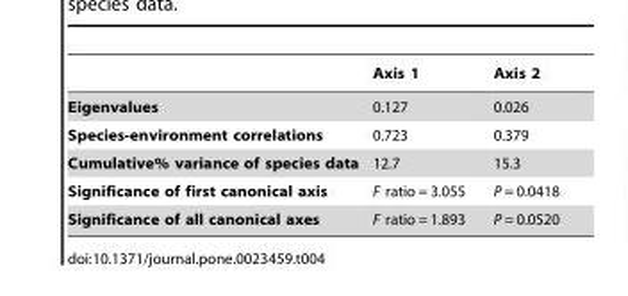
<table><thead><tr><td></td><td>Axis 1</td><td>Axis 2</td></tr></thead><tbody><tr><td>Eigenvalues</td><td>0.127</td><td>0.026</td></tr><tr><td>Species-environment correlations</td><td>0.723</td><td>0.379</td></tr><tr><td>Cumulative% variance of species data</td><td>12.7</td><td>15.3</td></tr><tr><td>Significance of first canonical axis</td><td>F ratio = 3.055</td><td>P = 0.0418</td></tr><tr><td>Significance of all canonical axes</td><td>F ratio = 1.893</td><td>P = 0.0520</td></tr></tbody></table>